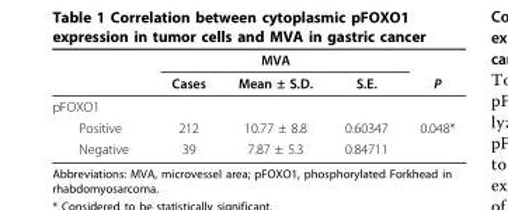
<table><thead><tr><td rowspan="2"></td><td rowspan="2">Cases</td><td rowspan="2">MVA Mean ± S.D.</td><td rowspan="2">S.E.</td><td rowspan="2">P</td></tr><tr></tr></thead><tbody><tr><td colspan="5">pFOXO1</td></tr><tr><td>Positive</td><td>212</td><td>10.77 ± 8.8</td><td>0.60347</td><td>0.048*</td></tr><tr><td>Negative</td><td>39</td><td>7.87 ± 5.3</td><td>0.84711</td><td></td></tr></tbody></table>